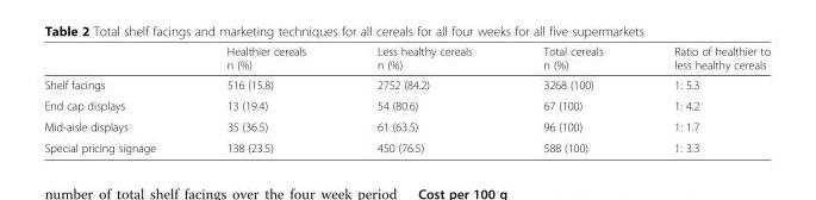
<table><thead><tr><td></td><td>Healthier cereals n (%)</td><td>Less healthy cereals n (%)</td><td>Total cereals n (%)</td><td>Ratio of healthier to less healthy cereals</td></tr></thead><tbody><tr><td>Shelf facings</td><td>516 (15.8)</td><td>2752 (84.2)</td><td>3268 (100)</td><td>1: 5.3</td></tr><tr><td>End cap displays</td><td>13 (19.4)</td><td>54 (80.6)</td><td>67 (100)</td><td>1: 4.2</td></tr><tr><td>Mid-aisle displays</td><td>35 (36.5)</td><td>61 (63.5)</td><td>96 (100)</td><td>1: 1.7</td></tr><tr><td>Special pricing signage</td><td>138 (23.5)</td><td>450 (76.5)</td><td>588 (100)</td><td>1: 3.3</td></tr></tbody></table>